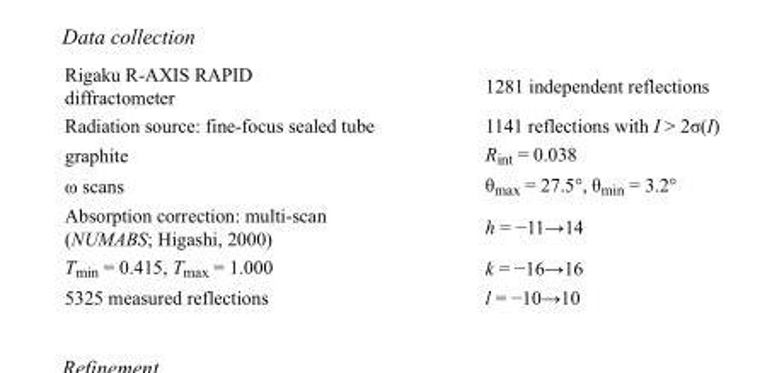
<table><tbody><tr><td>Rigaku R-AXIS RAPID diffractometer</td><td>1281 independent reflections</td></tr><tr><td>Radiation source: fine-focus sealed tube</td><td>1141 reflections with I &gt; 2σ(I)</td></tr><tr><td>graphite</td><td>R<sub>int</sub> = 0.038</td></tr><tr><td>ω scans</td><td>θ<sub>max</sub> = 27.5°, θ<sub>min</sub> = 3.2°</td></tr><tr><td>Absorption correction: multi-scan (NUMABS; Higashi, 2000)</td><td>h = −11→14</td></tr><tr><td>T<sub>min</sub> = 0.415, T<sub>max</sub> = 1.000</td><td>k = −16→16</td></tr><tr><td>5325 measured reflections</td><td>l = −10→10</td></tr></tbody></table>